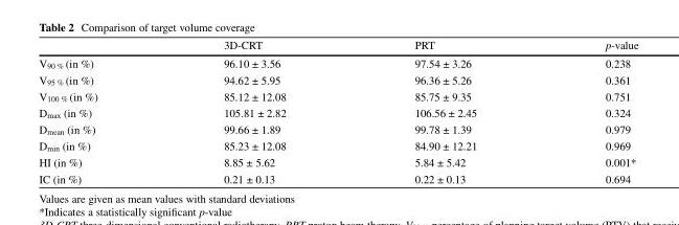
<table><thead><tr><td></td><td>3D-CRT</td><td>PRT</td><td>p-value</td></tr></thead><tbody><tr><td>V<sub>90 %</sub> (in %)</td><td>96.10 ± 3.56</td><td>97.54 ± 3.26</td><td>0.238</td></tr><tr><td>V<sub>95 %</sub> (in %)</td><td>94.62 ± 5.95</td><td>96.36 ± 5.26</td><td>0.361</td></tr><tr><td>V<sub>100 %</sub> (in %)</td><td>85.12 ± 12.08</td><td>85.75 ± 9.35</td><td>0.751</td></tr><tr><td>D<sub>max</sub> (in %)</td><td>105.81 ± 2.82</td><td>106.56 ± 2.45</td><td>0.324</td></tr><tr><td>D<sub>mean</sub> (in %)</td><td>99.66 ± 1.89</td><td>99.78 ± 1.39</td><td>0.979</td></tr><tr><td>D<sub>min</sub> (in %)</td><td>85.23 ± 12.08</td><td>84.90 ± 12.21</td><td>0.969</td></tr><tr><td>HI (in %)</td><td>8.85 ± 5.62</td><td>5.84 ± 5.42</td><td>0.001*</td></tr><tr><td>IC (in %)</td><td>0.21 ± 0.13</td><td>0.22 ± 0.13</td><td>0.694</td></tr></tbody></table>